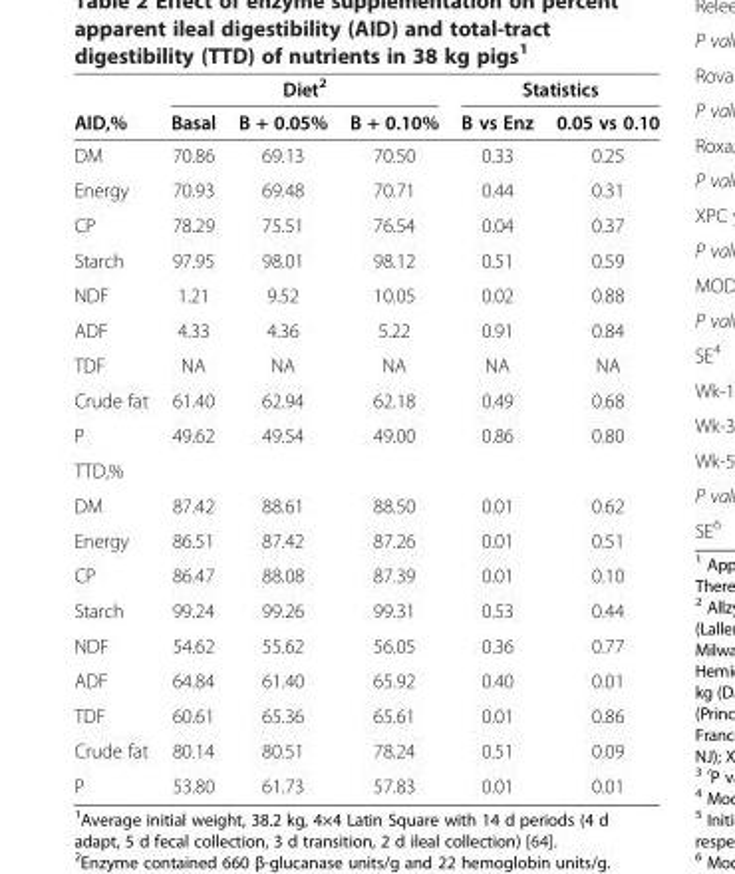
<table><thead><tr><td rowspan="2">AID,%</td><td colspan="3">Diet<sup>2</sup></td><td colspan="2">Statistics</td></tr><tr><td>Basal</td><td>B + 0.05%</td><td>B + 0.10%</td><td>B vs Enz</td><td>0.05 vs 0.10</td></tr></thead><tbody><tr><td>DM</td><td>70.86</td><td>69.13</td><td>70.50</td><td>0.33</td><td>0.25</td></tr><tr><td>Energy</td><td>70.93</td><td>69.48</td><td>70.71</td><td>0.44</td><td>0.31</td></tr><tr><td>CP</td><td>78.29</td><td>75.51</td><td>76.54</td><td>0.04</td><td>0.37</td></tr><tr><td>Starch</td><td>97.95</td><td>98.01</td><td>98.12</td><td>0.51</td><td>0.59</td></tr><tr><td>NDF</td><td>1.21</td><td>9.52</td><td>10.05</td><td>0.02</td><td>0.88</td></tr><tr><td>ADF</td><td>4.33</td><td>4.36</td><td>5.22</td><td>0.91</td><td>0.84</td></tr><tr><td>TDF</td><td>NA</td><td>NA</td><td>NA</td><td>NA</td><td>NA</td></tr><tr><td>Crude fat</td><td>61.40</td><td>62.94</td><td>62.18</td><td>0.49</td><td>0.68</td></tr><tr><td>P</td><td>49.62</td><td>49.54</td><td>49.00</td><td>0.86</td><td>0.80</td></tr><tr><td colspan="6">TTD,%</td></tr><tr><td>DM</td><td>87.42</td><td>88.61</td><td>88.50</td><td>0.01</td><td>0.62</td></tr><tr><td>Energy</td><td>86.51</td><td>87.42</td><td>87.26</td><td>0.01</td><td>0.51</td></tr><tr><td>CP</td><td>86.47</td><td>88.08</td><td>87.39</td><td>0.01</td><td>0.10</td></tr><tr><td>Starch</td><td>99.24</td><td>99.26</td><td>99.31</td><td>0.53</td><td>0.44</td></tr><tr><td>NDF</td><td>54.62</td><td>55.62</td><td>56.05</td><td>0.36</td><td>0.77</td></tr><tr><td>ADF</td><td>64.84</td><td>61.40</td><td>65.92</td><td>0.40</td><td>0.01</td></tr><tr><td>TDF</td><td>60.61</td><td>65.36</td><td>65.61</td><td>0.01</td><td>0.86</td></tr><tr><td>Crude fat</td><td>80.14</td><td>80.51</td><td>78.24</td><td>0.51</td><td>0.09</td></tr><tr><td>P</td><td>53.80</td><td>61.73</td><td>57.83</td><td>0.01</td><td>0.01</td></tr></tbody></table>